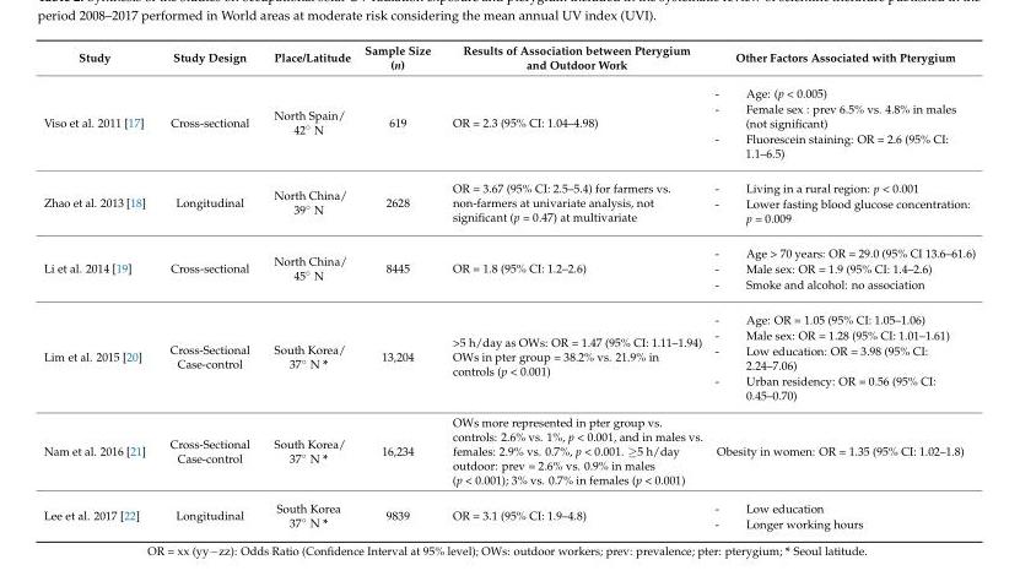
<table><thead><tr><td>Study</td><td>Study Design</td><td>Place/Latitude</td><td>Sample Size (n)</td><td>Results of Association between Pterygium and Outdoor Work</td><td>Other Factors Associated with Pterygium</td></tr></thead><tbody><tr><td>Viso et al. 2011 [17]</td><td>Cross-sectional</td><td>North Spain/ 42◦ N</td><td>619</td><td>OR = 2.3 (95% CI: 1.04–4.98)</td><td>- Age: (p &lt; 0.005) - Female sex : prev 6.5% vs. 4.8% in males (not significant) - Fluorescein staining: OR = 2.6 (95% CI: 1.1–6.5)</td></tr><tr><td>Zhao et al. 2013 [18]</td><td>Longitudinal</td><td>North China/ 39◦ N</td><td>2628</td><td>OR = 3.67 (95% CI: 2.5–5.4) for farmers vs. non-farmers at univariate analysis, not significant (p = 0.47) at multivariate</td><td>- Living in a rural region: p &lt; 0.001 - Lower fasting blood glucose concentration: p = 0.009</td></tr><tr><td>Li et al. 2014 [19]</td><td>Cross-sectional</td><td>North China/ 45◦ N</td><td>8445</td><td>OR = 1.8 (95% CI: 1.2–2.6)</td><td>- Age &gt; 70 years: OR = 29.0 (95% CI 13.6–61.6) - Male sex: OR = 1.9 (95% CI: 1.4–2.6) - Smoke and alcohol: no association</td></tr><tr><td>Lim et al. 2015 [20]</td><td>Cross-Sectional Case-control</td><td>South Korea/ 37◦ N *</td><td>13,204</td><td>&gt;5 h/day as OWs: OR = 1.47 (95% CI: 1.11–1.94) OWs in pter group = 38.2% vs. 21.9% in controls (p &lt; 0.001)</td><td>- Age: OR = 1.05 (95% CI: 1.05–1.06) - Male sex: OR = 1.28 (95% CI: 1.01–1.61) - Low education: OR = 3.98 (95% CI: 2.24–7.06) - Urban residency: OR = 0.56 (95% CI: 0.45–0.70)</td></tr><tr><td>Nam et al. 2016 [21]</td><td>Cross-Sectional Case-control</td><td>South Korea/ 37◦ N *</td><td>16,234</td><td>OWs more represented in pter group vs. controls: 2.6% vs. 1%, p &lt; 0.001, and in males vs. females: 2.9% vs. 0.7%, p &lt; 0.001. ≥5 h/day outdoor: prev = 2.6% vs. 0.9% in males (p &lt; 0.001); 3% vs. 0.7% in females (p &lt; 0.001)</td><td>Obesity in women: OR = 1.35 (95% CI: 1.02–1.8)</td></tr><tr><td>Lee et al. 2017 [22]</td><td>Longitudinal</td><td>South Korea 37◦ N *</td><td>9839</td><td>OR = 3.1 (95% CI: 1.9–4.8)</td><td>- Low education - Longer working hours</td></tr></tbody></table>